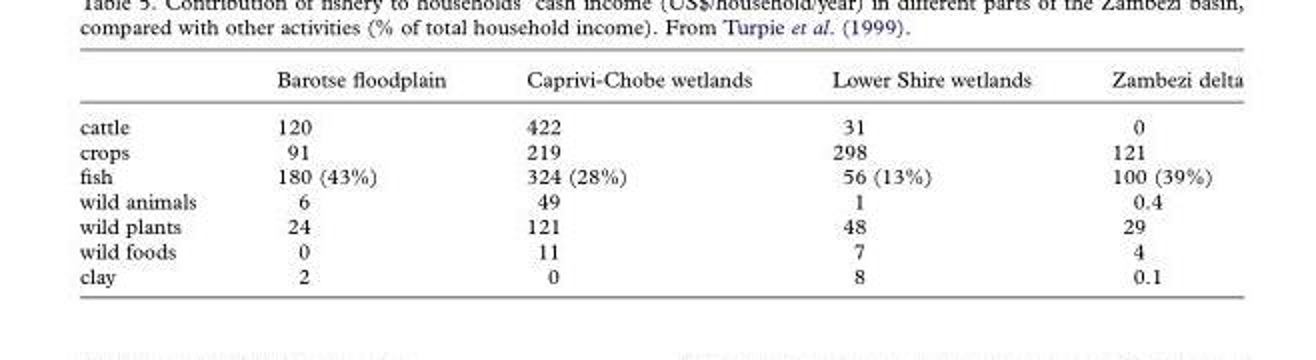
<table><thead><tr><td></td><td>Barotse floodplain</td><td>Caprivi-Chobe wetlands</td><td>Lower Shire wetlands</td><td>Zambezi delta</td></tr></thead><tbody><tr><td>cattle</td><td>120</td><td>422</td><td>31</td><td>0</td></tr><tr><td>crops</td><td>91</td><td>219</td><td>298</td><td>121</td></tr><tr><td>fish</td><td>180 (43%)</td><td>324 (28%)</td><td>56 (13%)</td><td>100 (39%)</td></tr><tr><td>wild animals</td><td>6</td><td>49</td><td>1</td><td>0.4</td></tr><tr><td>wild plants</td><td>24</td><td>121</td><td>48</td><td>29</td></tr><tr><td>wild foods</td><td>0</td><td>11</td><td>7</td><td>4</td></tr><tr><td>clay</td><td>2</td><td>0</td><td>8</td><td>0.1</td></tr></tbody></table>